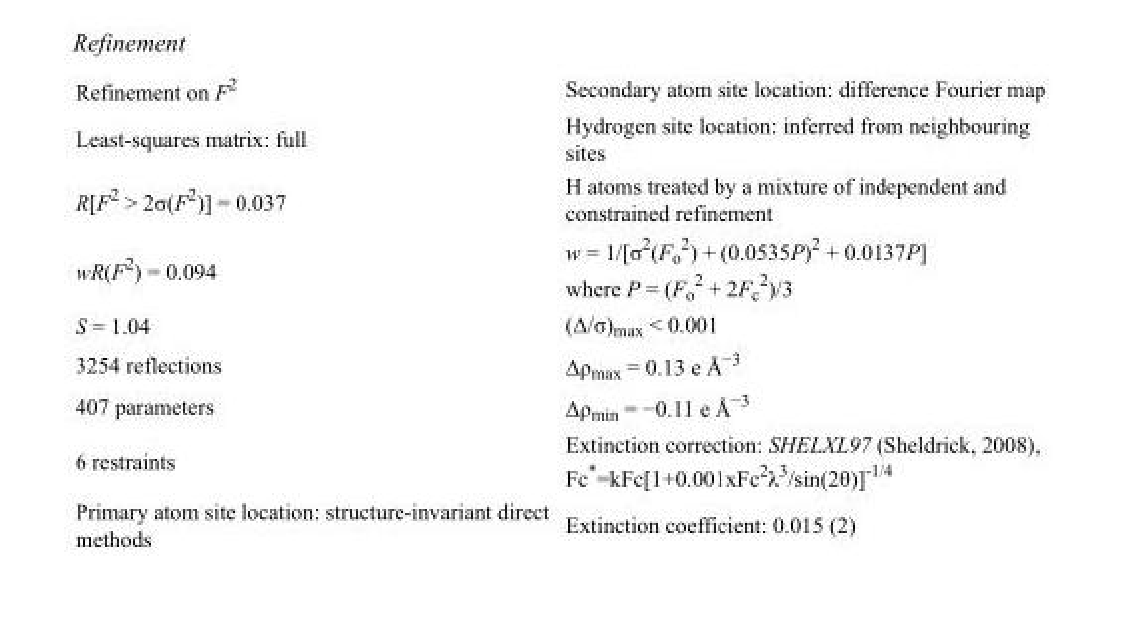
<table><tbody><tr><td>Refinement on F<sup>2</sup></td><td>Secondary atom site location: difference Fourier map</td></tr><tr><td>Least-squares matrix: full</td><td>Hydrogen site location: inferred from neighbouring sites</td></tr><tr><td>R[F<sup>2</sup> &gt; 2σ(F<sup>2</sup>)] = 0.037</td><td>H atoms treated by a mixture of independent and constrained refinement</td></tr><tr><td>wR(F<sup>2</sup>) = 0.094</td><td>w = 1/[σ<sup>2</sup>(F<sub>o</sub> <sup>2</sup>) + (0.0535P)<sup>2</sup> + 0.0137P] where P = (F<sub>o</sub> <sup>2</sup> + 2F<sub>c</sub> <sup>2</sup>)/3</td></tr><tr><td>S = 1.04</td><td>(Δ/σ)<sub>max</sub> &lt; 0.001</td></tr><tr><td>3254 reflections</td><td>Δρ<sub>max</sub> = 0.13 e Å<sup>−3</sup></td></tr><tr><td>407 parameters</td><td>Δρ<sub>min</sub> = −0.11 e Å<sup>−3</sup></td></tr><tr><td>6 restraints</td><td>Extinction correction: SHELXL97 (Sheldrick, 2008), Fc*=kFc[1+0.001xFc<sup>2</sup>λ<sup>3</sup>/sin(2θ)]<sup>-1/4</sup></td></tr><tr><td>Primary atom site location: structure-invariant direct methods</td><td>Extinction coefficient: 0.015 (2)</td></tr></tbody></table>